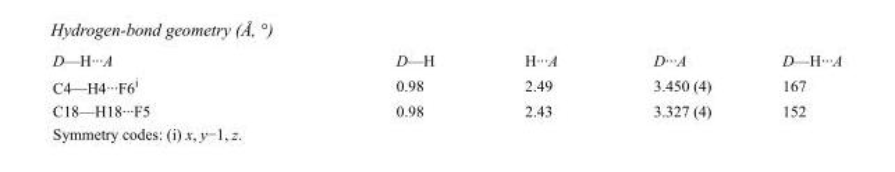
<table><tbody><tr><td>D—H···A</td><td>D—H</td><td>H···A</td><td>D···A</td><td>D—H···A</td></tr><tr><td>C4—H4···F6<sup>i</sup></td><td>0.98</td><td>2.49</td><td>3.450 (4)</td><td>167</td></tr><tr><td>C18—H18···F5</td><td>0.98</td><td>2.43</td><td>3.327 (4)</td><td>152</td></tr></tbody></table>